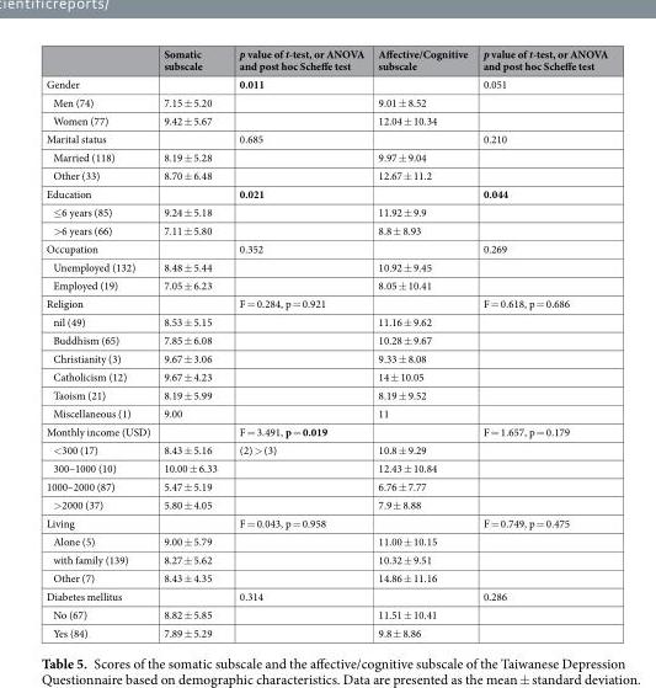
<table><thead><tr><td></td><td>Somatic subscale</td><td>p value of t-test, or ANOVA and post hoc Scheffe test</td><td>Affective/Cognitive subscale</td><td>p value of t-test, or ANOVA and post hoc Scheffe test</td></tr></thead><tbody><tr><td>Gender</td><td></td><td>0.011</td><td></td><td>0.051</td></tr><tr><td>Men (74)</td><td>7.15 ± 5.20</td><td></td><td>9.01 ± 8.52</td><td></td></tr><tr><td>Women (77)</td><td>9.42 ± 5.67</td><td></td><td>12.04 ± 10.34</td><td></td></tr><tr><td>Marital status</td><td></td><td>0.685</td><td></td><td>0.210</td></tr><tr><td>Married (118)</td><td>8.19 ± 5.28</td><td></td><td>9.97 ± 9.04</td><td></td></tr><tr><td>Other (33)</td><td>8.70 ± 6.48</td><td></td><td>12.67 ± 11.2</td><td></td></tr><tr><td>Education</td><td></td><td>0.021</td><td></td><td>0.044</td></tr><tr><td>≤6 years (85)</td><td>9.24 ± 5.18</td><td></td><td>11.92 ± 9.9</td><td></td></tr><tr><td>&gt;6 years (66)</td><td>7.11 ± 5.80</td><td></td><td>8.8 ± 8.93</td><td></td></tr><tr><td>Occupation</td><td></td><td>0.352</td><td></td><td>0.269</td></tr><tr><td>Unemployed (132)</td><td>8.48 ± 5.44</td><td></td><td>10.92 ± 9.45</td><td></td></tr><tr><td>Employed (19)</td><td>7.05 ± 6.23</td><td></td><td>8.05 ± 10.41</td><td></td></tr><tr><td>Religion</td><td></td><td>F = 0.284, p = 0.921</td><td></td><td>F = 0.618, p = 0.686</td></tr><tr><td>nil (49)</td><td>8.53 ± 5.15</td><td></td><td>11.16 ± 9.62</td><td></td></tr><tr><td>Buddhism (65)</td><td>7.85 ± 6.08</td><td></td><td>10.28 ± 9.67</td><td></td></tr><tr><td>Christianity (3)</td><td>9.67 ± 3.06</td><td></td><td>9.33 ± 8.08</td><td></td></tr><tr><td>Catholicism (12)</td><td>9.67 ± 4.23</td><td></td><td>14 ± 10.05</td><td></td></tr><tr><td>Taoism (21)</td><td>8.19 ± 5.99</td><td></td><td>8.19 ± 9.52</td><td></td></tr><tr><td>Miscellaneous (1)</td><td>9.00</td><td></td><td>11</td><td></td></tr><tr><td>Monthly income (USD)</td><td></td><td>F = 3.491, p = 0.019</td><td></td><td>F = 1.657, p = 0.179</td></tr><tr><td>&lt;300 (17)</td><td>8.43 ± 5.16</td><td>(2) &gt; (3)</td><td>10.8 ± 9.29</td><td></td></tr><tr><td>300–1000 (10)</td><td>10.00 ± 6.33</td><td></td><td>12.43 ± 10.84</td><td></td></tr><tr><td>1000–2000 (87)</td><td>5.47 ± 5.19</td><td></td><td>6.76 ± 7.77</td><td></td></tr><tr><td>&gt;2000 (37)</td><td>5.80 ± 4.05</td><td></td><td>7.9 ± 8.88</td><td></td></tr><tr><td>Living</td><td></td><td>F = 0.043, p = 0.958</td><td></td><td>F = 0.749, p = 0.475</td></tr><tr><td>Alone (5)</td><td>9.00 ± 5.79</td><td></td><td>11.00 ± 10.15</td><td></td></tr><tr><td>with family (139)</td><td>8.27 ± 5.62</td><td></td><td>10.32 ± 9.51</td><td></td></tr><tr><td>Other (7)</td><td>8.43 ± 4.35</td><td></td><td>14.86 ± 11.16</td><td></td></tr><tr><td>Diabetes mellitus</td><td></td><td>0.314</td><td></td><td>0.286</td></tr><tr><td>No (67)</td><td>8.82 ± 5.85</td><td></td><td>11.51 ± 10.41</td><td></td></tr><tr><td>Yes (84)</td><td>7.89 ± 5.29</td><td></td><td>9.8 ± 8.86</td><td></td></tr></tbody></table>